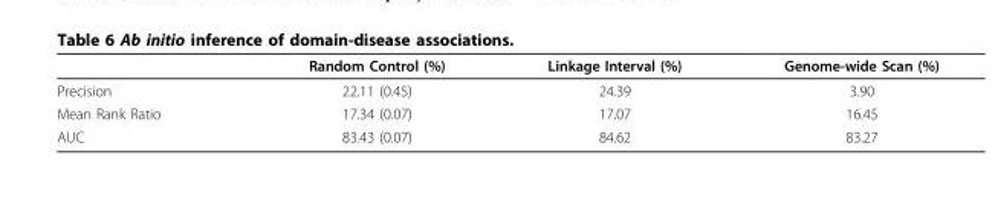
<table><thead><tr><td></td><td>Random Control (%)</td><td>Linkage Interval (%)</td><td>Genome-wide Scan (%)</td></tr></thead><tbody><tr><td>Precision</td><td>22.11 (0.45)</td><td>24.39</td><td>3.90</td></tr><tr><td>Mean Rank Ratio</td><td>17.34 (0.07)</td><td>17.07</td><td>16.45</td></tr><tr><td>AUC</td><td>83.43 (0.07)</td><td>84.62</td><td>83.27</td></tr></tbody></table>